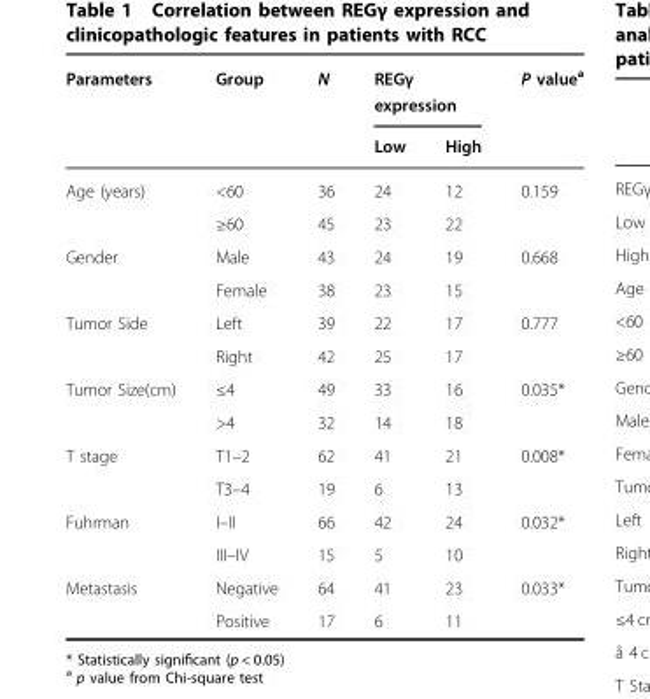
<table><thead><tr><td rowspan="2">Parameters</td><td rowspan="2">Group</td><td rowspan="2">N</td><td colspan="2">REGγ expression</td><td rowspan="2">P value<sup>a</sup></td></tr><tr><td>Low</td><td>High</td></tr></thead><tbody><tr><td rowspan="2">Age (years)</td><td>&lt;60</td><td>36</td><td>24</td><td>12</td><td>0.159</td></tr><tr><td>≥60</td><td>45</td><td>23</td><td>22</td><td></td></tr><tr><td rowspan="2">Gender</td><td>Male</td><td>43</td><td>24</td><td>19</td><td>0.668</td></tr><tr><td>Female</td><td>38</td><td>23</td><td>15</td><td></td></tr><tr><td rowspan="2">Tumor Side</td><td>Left</td><td>39</td><td>22</td><td>17</td><td>0.777</td></tr><tr><td>Right</td><td>42</td><td>25</td><td>17</td><td></td></tr><tr><td rowspan="2">Tumor Size(cm)</td><td>≤4</td><td>49</td><td>33</td><td>16</td><td>0.035*</td></tr><tr><td>&gt;4</td><td>32</td><td>14</td><td>18</td><td></td></tr><tr><td rowspan="2">T stage</td><td>T1–2</td><td>62</td><td>41</td><td>21</td><td>0.008*</td></tr><tr><td>T3–4</td><td>19</td><td>6</td><td>13</td><td></td></tr><tr><td rowspan="2">Fuhrman</td><td>I–II</td><td>66</td><td>42</td><td>24</td><td>0.032*</td></tr><tr><td>III–IV</td><td>15</td><td>5</td><td>10</td><td></td></tr><tr><td rowspan="2">Metastasis</td><td>Negative</td><td>64</td><td>41</td><td>23</td><td>0.033*</td></tr><tr><td>Positive</td><td>17</td><td>6</td><td>11</td><td></td></tr></tbody></table>